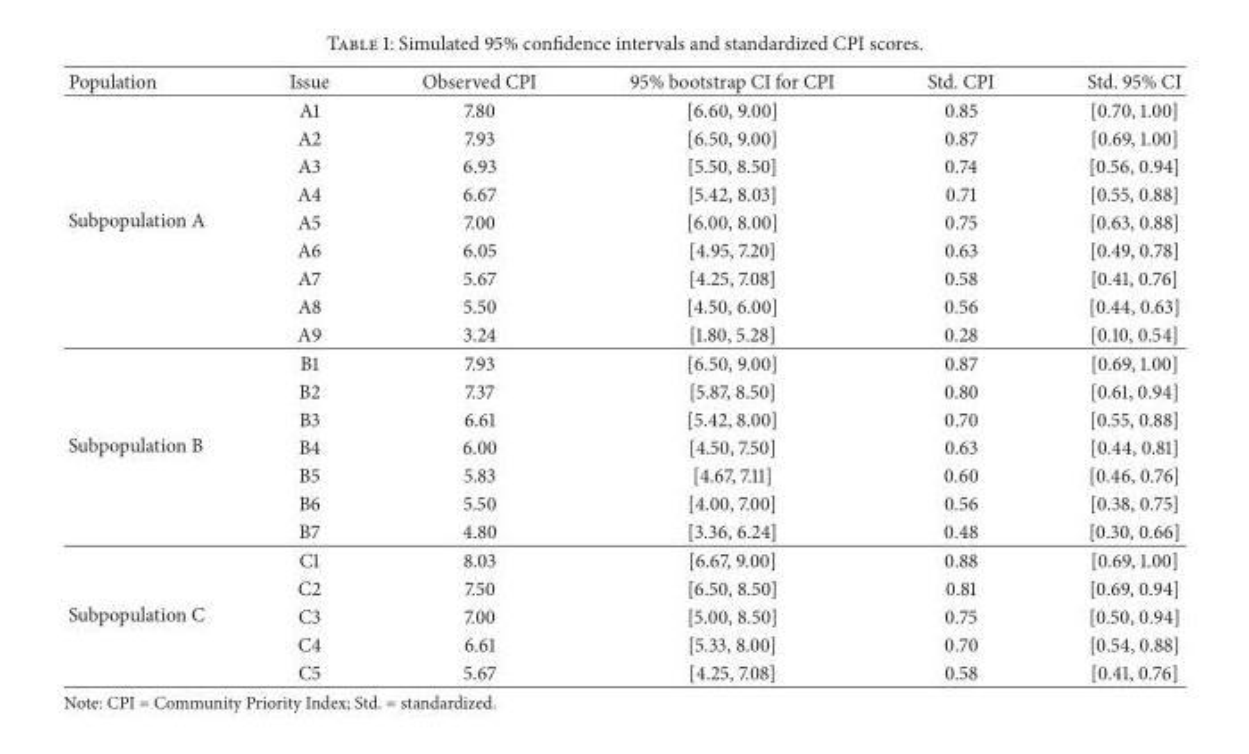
<table><thead><tr><td>Population</td><td>Issue</td><td>Observed CPI</td><td>95% bootstrap CI for CPI</td><td>Std. CPI</td><td>Std. 95% CI</td></tr></thead><tbody><tr><td rowspan="9">Subpopulation A</td><td>A1</td><td>7.80</td><td>[6.60, 9.00]</td><td>0.85</td><td>[0.70, 1.00]</td></tr><tr><td>A2</td><td>7.93</td><td>[6.50, 9.00]</td><td>0.87</td><td>[0.69, 1.00]</td></tr><tr><td>A3</td><td>6.93</td><td>[5.50, 8.50]</td><td>0.74</td><td>[0.56, 0.94]</td></tr><tr><td>A4</td><td>6.67</td><td>[5.42, 8.03]</td><td>0.71</td><td>[0.55, 0.88]</td></tr><tr><td>A5</td><td>7.00</td><td>[6.00, 8.00]</td><td>0.75</td><td>[0.63, 0.88]</td></tr><tr><td>A6</td><td>6.05</td><td>[4.95, 7.20]</td><td>0.63</td><td>[0.49, 0.78]</td></tr><tr><td>A7</td><td>5.67</td><td>[4.25, 7.08]</td><td>0.58</td><td>[0.41, 0.76]</td></tr><tr><td>A8</td><td>5.50</td><td>[4.50, 6.00]</td><td>0.56</td><td>[0.44, 0.63]</td></tr><tr><td>A9</td><td>3.24</td><td>[1.80, 5.28]</td><td>0.28</td><td>[0.10, 0.54]</td></tr><tr><td rowspan="7">Subpopulation B</td><td>B1</td><td>7.93</td><td>[6.50, 9.00]</td><td>0.87</td><td>[0.69, 1.00]</td></tr><tr><td>B2</td><td>7.37</td><td>[5.87, 8.50]</td><td>0.80</td><td>[0.61, 0.94]</td></tr><tr><td>B3</td><td>6.61</td><td>[5.42, 8.00]</td><td>0.70</td><td>[0.55, 0.88]</td></tr><tr><td>B4</td><td>6.00</td><td>[4.50, 7.50]</td><td>0.63</td><td>[0.44, 0.81]</td></tr><tr><td>B5</td><td>5.83</td><td>[4.67, 7.11]</td><td>0.60</td><td>[0.46, 0.76]</td></tr><tr><td>B6</td><td>5.50</td><td>[4.00, 7.00]</td><td>0.56</td><td>[0.38, 0.75]</td></tr><tr><td>B7</td><td>4.80</td><td>[3.36, 6.24]</td><td>0.48</td><td>[0.30, 0.66]</td></tr><tr><td rowspan="5">Subpopulation C</td><td>C1</td><td>8.03</td><td>[6.67, 9.00]</td><td>0.88</td><td>[0.69, 1.00]</td></tr><tr><td>C2</td><td>7.50</td><td>[6.50, 8.50]</td><td>0.81</td><td>[0.69, 0.94]</td></tr><tr><td>C3</td><td>7.00</td><td>[5.00, 8.50]</td><td>0.75</td><td>[0.50, 0.94]</td></tr><tr><td>C4</td><td>6.61</td><td>[5.33, 8.00]</td><td>0.70</td><td>[0.54, 0.88]</td></tr><tr><td>C5</td><td>5.67</td><td>[4.25, 7.08]</td><td>0.58</td><td>[0.41, 0.76]</td></tr></tbody></table>